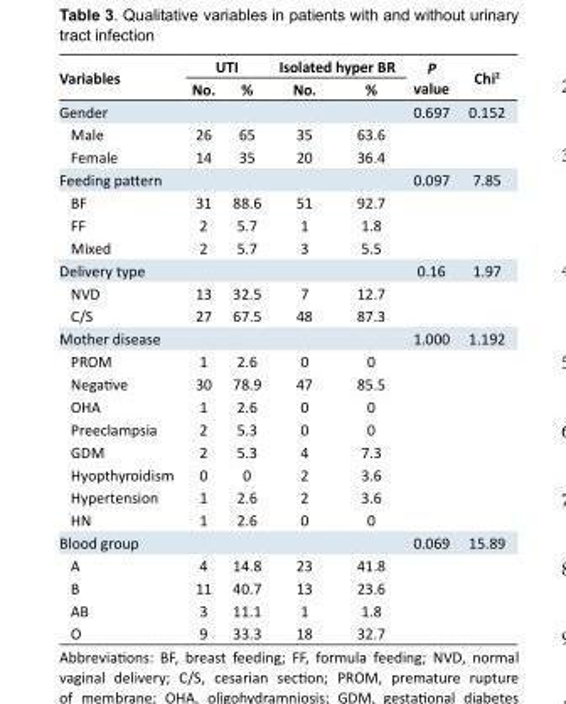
<table><tbody><tr><td rowspan="2">Variables</td><td colspan="2">UTI</td><td colspan="2">Isolated hyper BR</td><td rowspan="2">P value</td><td rowspan="2">Chi<sup>2</sup></td></tr><tr><td>No.</td><td>%</td><td>No.</td><td>%</td></tr><tr><td>Gender</td><td></td><td></td><td></td><td></td><td>0.697</td><td>0.152</td></tr><tr><td>Male</td><td>26</td><td>65</td><td>35</td><td>63.6</td><td></td><td></td></tr><tr><td>Female</td><td>14</td><td>35</td><td>20</td><td>36.4</td><td></td><td></td></tr><tr><td>Feeding pattern</td><td></td><td></td><td></td><td></td><td>0.097</td><td>7.85</td></tr><tr><td>BF</td><td>31</td><td>88.6</td><td>51</td><td>92.7</td><td></td><td></td></tr><tr><td>FF</td><td>2</td><td>5.7</td><td>1</td><td>1.8</td><td></td><td></td></tr><tr><td>Mixed</td><td>2</td><td>5.7</td><td>3</td><td>5.5</td><td></td><td></td></tr><tr><td>Delivery type</td><td></td><td></td><td></td><td></td><td>0.16</td><td>1.97</td></tr><tr><td>NVD</td><td>13</td><td>32.5</td><td>7</td><td>12.7</td><td></td><td></td></tr><tr><td>C/S</td><td>27</td><td>67.5</td><td>48</td><td>87.3</td><td></td><td></td></tr><tr><td>Mother disease</td><td></td><td></td><td></td><td></td><td>1.000</td><td>1.192</td></tr><tr><td>PROM</td><td>1</td><td>2.6</td><td>0</td><td>0</td><td></td><td></td></tr><tr><td>Negative</td><td>30</td><td>78.9</td><td>47</td><td>85.5</td><td></td><td></td></tr><tr><td>OHA</td><td>1</td><td>2.6</td><td>0</td><td>0</td><td></td><td></td></tr><tr><td>Preeclampsia</td><td>2</td><td>5.3</td><td>0</td><td>0</td><td></td><td></td></tr><tr><td>GDM</td><td>2</td><td>5.3</td><td>4</td><td>7.3</td><td></td><td></td></tr><tr><td>Hyopthyroidism</td><td>0</td><td>0</td><td>2</td><td>3.6</td><td></td><td></td></tr><tr><td>Hypertension</td><td>1</td><td>2.6</td><td>2</td><td>3.6</td><td></td><td></td></tr><tr><td>HN</td><td>1</td><td>2.6</td><td>0</td><td>0</td><td></td><td></td></tr><tr><td>Blood group</td><td></td><td></td><td></td><td></td><td>0.069</td><td>15.89</td></tr><tr><td>A</td><td>4</td><td>14.8</td><td>23</td><td>41.8</td><td></td><td></td></tr><tr><td>B</td><td>11</td><td>40.7</td><td>13</td><td>23.6</td><td></td><td></td></tr><tr><td>AB</td><td>3</td><td>11.1</td><td>1</td><td>1.8</td><td></td><td></td></tr><tr><td>O</td><td>9</td><td>33.3</td><td>18</td><td>32.7</td><td></td><td></td></tr></tbody></table>